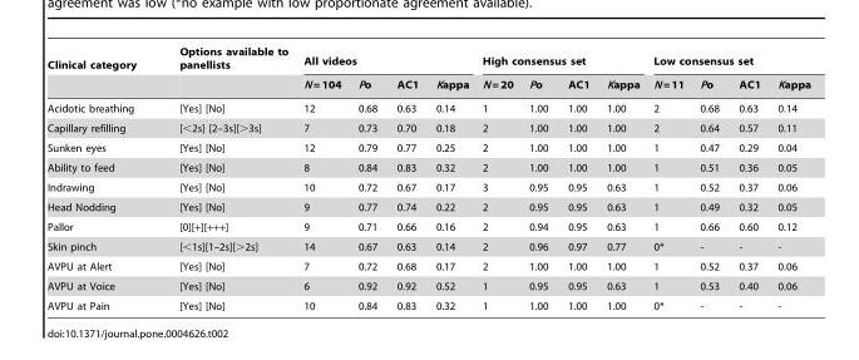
<table><thead><tr><td rowspan="2">Clinical category</td><td rowspan="2">Options available to panellists</td><td colspan="4">All videos</td><td colspan="4">High consensus set</td><td colspan="4">Low consensus set</td></tr><tr><td>N = 104</td><td>Po</td><td>AC1</td><td>Kappa</td><td>N = 20</td><td>Po</td><td>AC1</td><td>Kappa</td><td>N = 11</td><td>Po</td><td>AC1</td><td>Kappa</td></tr></thead><tbody><tr><td>Acidotic breathing</td><td>[Yes] [No]</td><td>12</td><td>0.68</td><td>0.63</td><td>0.14</td><td>1</td><td>1.00</td><td>1.00</td><td>1.00</td><td>2</td><td>0.68</td><td>0.63</td><td>0.14</td></tr><tr><td>Capillary refilling</td><td>[&lt;2s] [2–3s][&gt;3s]</td><td>7</td><td>0.73</td><td>0.70</td><td>0.18</td><td>2</td><td>1.00</td><td>1.00</td><td>1.00</td><td>2</td><td>0.64</td><td>0.57</td><td>0.11</td></tr><tr><td>Sunken eyes</td><td>[Yes] [No]</td><td>12</td><td>0.79</td><td>0.77</td><td>0.25</td><td>2</td><td>1.00</td><td>1.00</td><td>1.00</td><td>1</td><td>0.47</td><td>0.29</td><td>0.04</td></tr><tr><td>Ability to feed</td><td>[Yes] [No]</td><td>8</td><td>0.84</td><td>0.83</td><td>0.32</td><td>2</td><td>1.00</td><td>1.00</td><td>1.00</td><td>1</td><td>0.51</td><td>0.36</td><td>0.05</td></tr><tr><td>Indrawing</td><td>[Yes] [No]</td><td>10</td><td>0.72</td><td>0.67</td><td>0.17</td><td>3</td><td>0.95</td><td>0.95</td><td>0.63</td><td>1</td><td>0.52</td><td>0.37</td><td>0.06</td></tr><tr><td>Head Nodding</td><td>[Yes] [No]</td><td>9</td><td>0.77</td><td>0.74</td><td>0.22</td><td>2</td><td>0.95</td><td>0.95</td><td>0.63</td><td>1</td><td>0.49</td><td>0.32</td><td>0.05</td></tr><tr><td>Pallor</td><td>[0][+][+++]</td><td>9</td><td>0.71</td><td>0.66</td><td>0.16</td><td>2</td><td>0.94</td><td>0.95</td><td>0.63</td><td>1</td><td>0.66</td><td>0.60</td><td>0.12</td></tr><tr><td>Skin pinch</td><td>[&lt;1s][1–2s][&gt;2s]</td><td>14</td><td>0.67</td><td>0.63</td><td>0.14</td><td>2</td><td>0.96</td><td>0.97</td><td>0.77</td><td>0*</td><td>-</td><td>-</td><td>-</td></tr><tr><td>AVPU at Alert</td><td>[Yes] [No]</td><td>7</td><td>0.72</td><td>0.68</td><td>0.17</td><td>2</td><td>1.00</td><td>1.00</td><td>1.00</td><td>1</td><td>0.52</td><td>0.37</td><td>0.06</td></tr><tr><td>AVPU at Voice</td><td>[Yes] [No]</td><td>6</td><td>0.92</td><td>0.92</td><td>0.52</td><td>1</td><td>0.95</td><td>0.95</td><td>0.63</td><td>1</td><td>0.53</td><td>0.40</td><td>0.06</td></tr><tr><td>AVPU at Pain</td><td>[Yes] [No]</td><td>10</td><td>0.84</td><td>0.83</td><td>0.32</td><td>1</td><td>1.00</td><td>1.00</td><td>1.00</td><td>0*</td><td>-</td><td>-</td><td>-</td></tr></tbody></table>